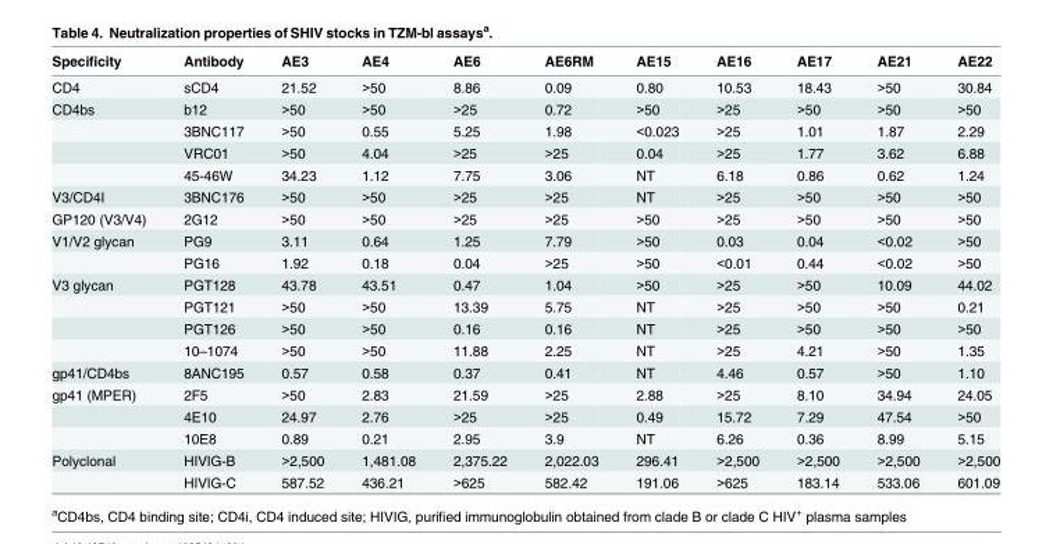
<table><thead><tr><td>Specificity</td><td>Antibody</td><td>AE3</td><td>AE4</td><td>AE6</td><td>AE6RM</td><td>AE15</td><td>AE16</td><td>AE17</td><td>AE21</td><td>AE22</td></tr></thead><tbody><tr><td>CD4</td><td>sCD4</td><td>21.52</td><td>&gt;50</td><td>8.86</td><td>0.09</td><td>0.80</td><td>10.53</td><td>18.43</td><td>&gt;50</td><td>30.84</td></tr><tr><td rowspan="4">CD4bs</td><td>b12</td><td>&gt;50</td><td>&gt;50</td><td>&gt;25</td><td>0.72</td><td>&gt;50</td><td>&gt;25</td><td>&gt;50</td><td>&gt;50</td><td>&gt;50</td></tr><tr><td>3BNC117</td><td>&gt;50</td><td>0.55</td><td>5.25</td><td>1.98</td><td>&lt;0.023</td><td>&gt;25</td><td>1.01</td><td>1.87</td><td>2.29</td></tr><tr><td>VRC01</td><td>&gt;50</td><td>4.04</td><td>&gt;25</td><td>&gt;25</td><td>0.04</td><td>&gt;25</td><td>1.77</td><td>3.62</td><td>6.88</td></tr><tr><td>45-46W</td><td>34.23</td><td>1.12</td><td>7.75</td><td>3.06</td><td>NT</td><td>6.18</td><td>0.86</td><td>0.62</td><td>1.24</td></tr><tr><td>V3/CD4I</td><td>3BNC176</td><td>&gt;50</td><td>&gt;50</td><td>&gt;25</td><td>&gt;25</td><td>NT</td><td>&gt;25</td><td>&gt;50</td><td>&gt;50</td><td>&gt;50</td></tr><tr><td>GP120 (V3/V4)</td><td>2G12</td><td>&gt;50</td><td>&gt;50</td><td>&gt;25</td><td>&gt;25</td><td>&gt;50</td><td>&gt;25</td><td>&gt;50</td><td>&gt;50</td><td>&gt;50</td></tr><tr><td rowspan="2">V1/V2 glycan</td><td>PG9</td><td>3.11</td><td>0.64</td><td>1.25</td><td>7.79</td><td>&gt;50</td><td>0.03</td><td>0.04</td><td>&lt;0.02</td><td>&gt;50</td></tr><tr><td>PG16</td><td>1.92</td><td>0.18</td><td>0.04</td><td>&gt;25</td><td>&gt;50</td><td>&lt;0.01</td><td>0.44</td><td>&lt;0.02</td><td>&gt;50</td></tr><tr><td rowspan="4">V3 glycan</td><td>PGT128</td><td>43.78</td><td>43.51</td><td>0.47</td><td>1.04</td><td>&gt;50</td><td>&gt;25</td><td>&gt;50</td><td>10.09</td><td>44.02</td></tr><tr><td>PGT121</td><td>&gt;50</td><td>&gt;50</td><td>13.39</td><td>5.75</td><td>NT</td><td>&gt;25</td><td>&gt;50</td><td>&gt;50</td><td>0.21</td></tr><tr><td>PGT126</td><td>&gt;50</td><td>&gt;50</td><td>0.16</td><td>0.16</td><td>NT</td><td>&gt;25</td><td>&gt;50</td><td>&gt;50</td><td>&gt;50</td></tr><tr><td>10–1074</td><td>&gt;50</td><td>&gt;50</td><td>11.88</td><td>2.25</td><td>NT</td><td>&gt;25</td><td>4.21</td><td>&gt;50</td><td>1.35</td></tr><tr><td>gp41/CD4bs</td><td>8ANC195</td><td>0.57</td><td>0.58</td><td>0.37</td><td>0.41</td><td>NT</td><td>4.46</td><td>0.57</td><td>&gt;50</td><td>1.10</td></tr><tr><td rowspan="3">gp41 (MPER)</td><td>2F5</td><td>&gt;50</td><td>2.83</td><td>21.59</td><td>&gt;25</td><td>2.88</td><td>&gt;25</td><td>8.10</td><td>34.94</td><td>24.05</td></tr><tr><td>4E10</td><td>24.97</td><td>2.76</td><td>&gt;25</td><td>&gt;25</td><td>0.49</td><td>15.72</td><td>7.29</td><td>47.54</td><td>&gt;50</td></tr><tr><td>10E8</td><td>0.89</td><td>0.21</td><td>2.95</td><td>3.9</td><td>NT</td><td>6.26</td><td>0.36</td><td>8.99</td><td>5.15</td></tr><tr><td rowspan="2">Polyclonal</td><td>HIVIG-B</td><td>&gt;2,500</td><td>1,481.08</td><td>2,375.22</td><td>2,022.03</td><td>296.41</td><td>&gt;2,500</td><td>&gt;2,500</td><td>&gt;2,500</td><td>&gt;2,500</td></tr><tr><td>HIVIG-C</td><td>587.52</td><td>436.21</td><td>&gt;625</td><td>582.42</td><td>191.06</td><td>&gt;625</td><td>183.14</td><td>533.06</td><td>601.09</td></tr></tbody></table>